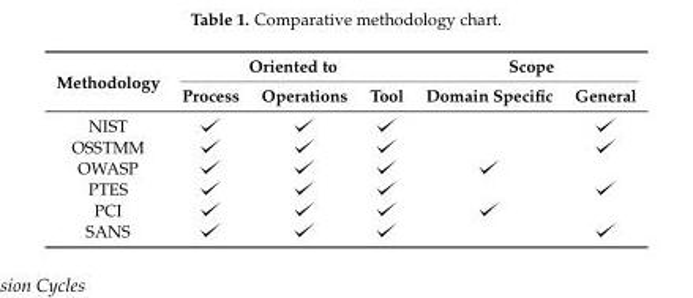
<table><thead><tr><td rowspan="2">Methodology</td><td colspan="3">Oriented to</td><td colspan="2">Scope</td></tr><tr><td>Process</td><td>Operations</td><td>Tool</td><td>Domain Specific</td><td>General</td></tr></thead><tbody><tr><td colspan="6">NIST</td></tr><tr><td colspan="6">OSSTMM</td></tr><tr><td colspan="6">OWASP</td></tr><tr><td colspan="6">PTES</td></tr><tr><td colspan="6">PCI</td></tr><tr><td>SANS</td><td></td><td></td><td></td><td></td><td></td></tr></tbody></table>